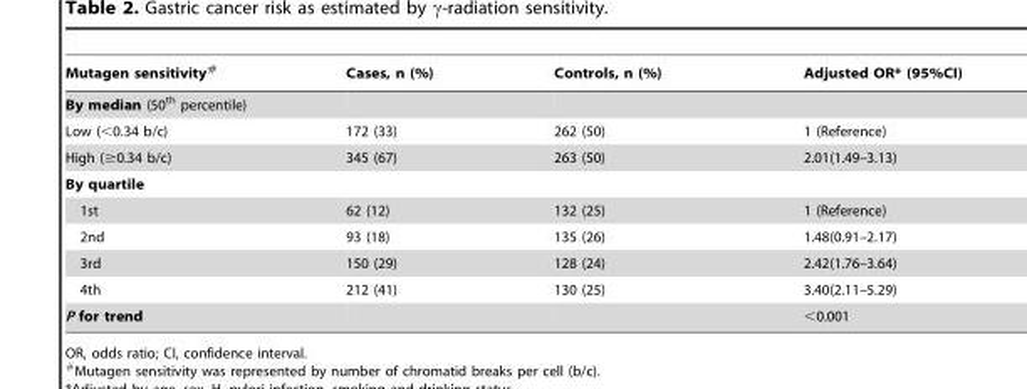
<table><thead><tr><td>Mutagen sensitivity#</td><td>Cases, n (%)</td><td>Controls, n (%)</td><td>Adjusted OR* (95%CI)</td></tr></thead><tbody><tr><td colspan="4">By median (50<sup>th</sup> percentile)</td></tr><tr><td>Low (&lt;0.34 b/c)</td><td>172 (33)</td><td>262 (50)</td><td>1 (Reference)</td></tr><tr><td>High (≥0.34 b/c)</td><td>345 (67)</td><td>263 (50)</td><td>2.01(1.49–3.13)</td></tr><tr><td colspan="4">By quartile</td></tr><tr><td>1st</td><td>62 (12)</td><td>132 (25)</td><td>1 (Reference)</td></tr><tr><td>2nd</td><td>93 (18)</td><td>135 (26)</td><td>1.48(0.91–2.17)</td></tr><tr><td>3rd</td><td>150 (29)</td><td>128 (24)</td><td>2.42(1.76–3.64)</td></tr><tr><td>4th</td><td>212 (41)</td><td>130 (25)</td><td>3.40(2.11–5.29)</td></tr><tr><td>P for trend</td><td></td><td></td><td>&lt;0.001</td></tr></tbody></table>